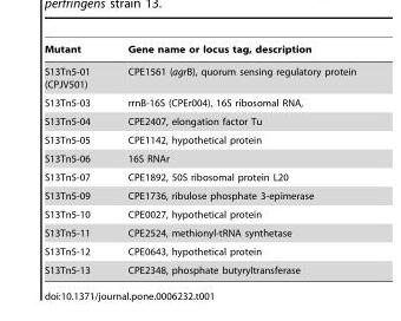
<table><thead><tr><td>Mutant</td><td>Gene name or locus tag, description</td></tr></thead><tbody><tr><td>S13Tn5-01 (CPJV501)</td><td>CPE1561 (agrB), quorum sensing regulatory protein</td></tr><tr><td>S13Tn5-03</td><td>rrnB-16S (CPEr004), 16S ribosomal RNA,</td></tr><tr><td>S13Tn5-04</td><td>CPE2407, elongation factor Tu</td></tr><tr><td>S13Tn5-05</td><td>CPE1142, hypothetical protein</td></tr><tr><td>S13Tn5-06</td><td>16S RNAr</td></tr><tr><td>S13Tn5-07</td><td>CPE1892, 50S ribosomal protein L20</td></tr><tr><td>S13Tn5-09</td><td>CPE1736, ribulose phosphate 3-epimerase</td></tr><tr><td>S13Tn5-10</td><td>CPE0027, hypothetical protein</td></tr><tr><td>S13Tn5-11</td><td>CPE2524, methionyl-tRNA synthetase</td></tr><tr><td>S13Tn5-12</td><td>CPE0643, hypothetical protein</td></tr><tr><td>S13Tn5-13</td><td>CPE2348, phosphate butyryltransferase</td></tr></tbody></table>